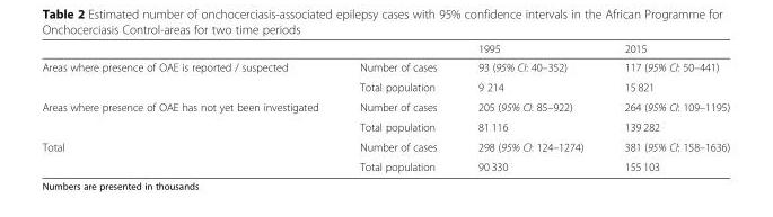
<table><thead><tr><td></td><td></td><td>1995</td><td>2015</td></tr></thead><tbody><tr><td rowspan="2">Areas where presence of OAE is reported / suspected</td><td>Number of cases</td><td>93 (95% CI: 40–352)</td><td>117 (95% CI: 50–441)</td></tr><tr><td>Total population</td><td>9 214</td><td>15 821</td></tr><tr><td rowspan="2">Areas where presence of OAE has not yet been investigated</td><td>Number of cases</td><td>205 (95% CI: 85–922)</td><td>264 (95% CI: 109–1195)</td></tr><tr><td>Total population</td><td>81 116</td><td>139 282</td></tr><tr><td rowspan="2">Total</td><td>Number of cases</td><td>298 (95% CI: 124–1274)</td><td>381 (95% CI: 158–1636)</td></tr><tr><td>Total population</td><td>90 330</td><td>155 103</td></tr></tbody></table>